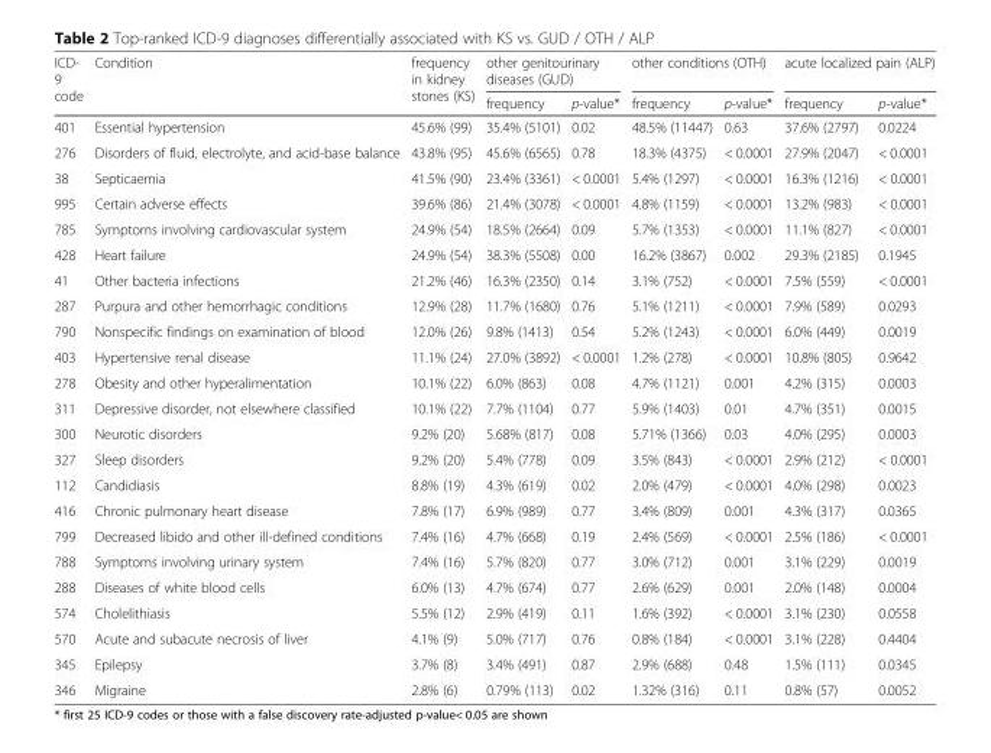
<table><thead><tr><td rowspan="2">ICD- 9 code</td><td rowspan="2">Condition</td><td rowspan="2">frequency in kidney stones (KS)</td><td colspan="2">other genitourinary diseases (GUD)</td><td colspan="2">other conditions (OTH)</td><td colspan="2">acute localized pain (ALP)</td></tr><tr><td>frequency</td><td>p-value*</td><td>frequency</td><td>p-value*</td><td>frequency</td><td>p-value*</td></tr></thead><tbody><tr><td>401</td><td>Essential hypertension</td><td>45.6% (99)</td><td>35.4% (5101)</td><td>0.02</td><td>48.5% (11447)</td><td>0.63</td><td>37.6% (2797)</td><td>0.0224</td></tr><tr><td>276</td><td>Disorders of fluid, electrolyte, and acid-base balance</td><td>43.8% (95)</td><td>45.6% (6565)</td><td>0.78</td><td>18.3% (4375)</td><td>&lt; 0.0001</td><td>27.9% (2047)</td><td>&lt; 0.0001</td></tr><tr><td>38</td><td>Septicaemia</td><td>41.5% (90)</td><td>23.4% (3361)</td><td>&lt; 0.0001</td><td>5.4% (1297)</td><td>&lt; 0.0001</td><td>16.3% (1216)</td><td>&lt; 0.0001</td></tr><tr><td>995</td><td>Certain adverse effects</td><td>39.6% (86)</td><td>21.4% (3078)</td><td>&lt; 0.0001</td><td>4.8% (1159)</td><td>&lt; 0.0001</td><td>13.2% (983)</td><td>&lt; 0.0001</td></tr><tr><td>785</td><td>Symptoms involving cardiovascular system</td><td>24.9% (54)</td><td>18.5% (2664)</td><td>0.09</td><td>5.7% (1353)</td><td>&lt; 0.0001</td><td>11.1% (827)</td><td>&lt; 0.0001</td></tr><tr><td>428</td><td>Heart failure</td><td>24.9% (54)</td><td>38.3% (5508)</td><td>0.00</td><td>16.2% (3867)</td><td>0.002</td><td>29.3% (2185)</td><td>0.1945</td></tr><tr><td>41</td><td>Other bacteria infections</td><td>21.2% (46)</td><td>16.3% (2350)</td><td>0.14</td><td>3.1% (752)</td><td>&lt; 0.0001</td><td>7.5% (559)</td><td>&lt; 0.0001</td></tr><tr><td>287</td><td>Purpura and other hemorrhagic conditions</td><td>12.9% (28)</td><td>11.7% (1680)</td><td>0.76</td><td>5.1% (1211)</td><td>&lt; 0.0001</td><td>7.9% (589)</td><td>0.0293</td></tr><tr><td>790</td><td>Nonspecific findings on examination of blood</td><td>12.0% (26)</td><td>9.8% (1413)</td><td>0.54</td><td>5.2% (1243)</td><td>&lt; 0.0001</td><td>6.0% (449)</td><td>0.0019</td></tr><tr><td>403</td><td>Hypertensive renal disease</td><td>11.1% (24)</td><td>27.0% (3892)</td><td>&lt; 0.0001</td><td>1.2% (278)</td><td>&lt; 0.0001</td><td>10.8% (805)</td><td>0.9642</td></tr><tr><td>278</td><td>Obesity and other hyperalimentation</td><td>10.1% (22)</td><td>6.0% (863)</td><td>0.08</td><td>4.7% (1121)</td><td>0.001</td><td>4.2% (315)</td><td>0.0003</td></tr><tr><td>311</td><td>Depressive disorder, not elsewhere classified</td><td>10.1% (22)</td><td>7.7% (1104)</td><td>0.77</td><td>5.9% (1403)</td><td>0.01</td><td>4.7% (351)</td><td>0.0015</td></tr><tr><td>300</td><td>Neurotic disorders</td><td>9.2% (20)</td><td>5.68% (817)</td><td>0.08</td><td>5.71% (1366)</td><td>0.03</td><td>4.0% (295)</td><td>0.0003</td></tr><tr><td>327</td><td>Sleep disorders</td><td>9.2% (20)</td><td>5.4% (778)</td><td>0.09</td><td>3.5% (843)</td><td>&lt; 0.0001</td><td>2.9% (212)</td><td>&lt; 0.0001</td></tr><tr><td>112</td><td>Candidiasis</td><td>8.8% (19)</td><td>4.3% (619)</td><td>0.02</td><td>2.0% (479)</td><td>&lt; 0.0001</td><td>4.0% (298)</td><td>0.0023</td></tr><tr><td>416</td><td>Chronic pulmonary heart disease</td><td>7.8% (17)</td><td>6.9% (989)</td><td>0.77</td><td>3.4% (809)</td><td>0.001</td><td>4.3% (317)</td><td>0.0365</td></tr><tr><td>799</td><td>Decreased libido and other ill-defined conditions</td><td>7.4% (16)</td><td>4.7% (668)</td><td>0.19</td><td>2.4% (569)</td><td>&lt; 0.0001</td><td>2.5% (186)</td><td>&lt; 0.0001</td></tr><tr><td>788</td><td>Symptoms involving urinary system</td><td>7.4% (16)</td><td>5.7% (820)</td><td>0.77</td><td>3.0% (712)</td><td>0.001</td><td>3.1% (229)</td><td>0.0019</td></tr><tr><td>288</td><td>Diseases of white blood cells</td><td>6.0% (13)</td><td>4.7% (674)</td><td>0.77</td><td>2.6% (629)</td><td>0.001</td><td>2.0% (148)</td><td>0.0004</td></tr><tr><td>574</td><td>Cholelithiasis</td><td>5.5% (12)</td><td>2.9% (419)</td><td>0.11</td><td>1.6% (392)</td><td>&lt; 0.0001</td><td>3.1% (230)</td><td>0.0558</td></tr><tr><td>570</td><td>Acute and subacute necrosis of liver</td><td>4.1% (9)</td><td>5.0% (717)</td><td>0.76</td><td>0.8% (184)</td><td>&lt; 0.0001</td><td>3.1% (228)</td><td>0.4404</td></tr><tr><td>345</td><td>Epilepsy</td><td>3.7% (8)</td><td>3.4% (491)</td><td>0.87</td><td>2.9% (688)</td><td>0.48</td><td>1.5% (111)</td><td>0.0345</td></tr><tr><td>346</td><td>Migraine</td><td>2.8% (6)</td><td>0.79% (113)</td><td>0.02</td><td>1.32% (316)</td><td>0.11</td><td>0.8% (57)</td><td>0.0052</td></tr></tbody></table>